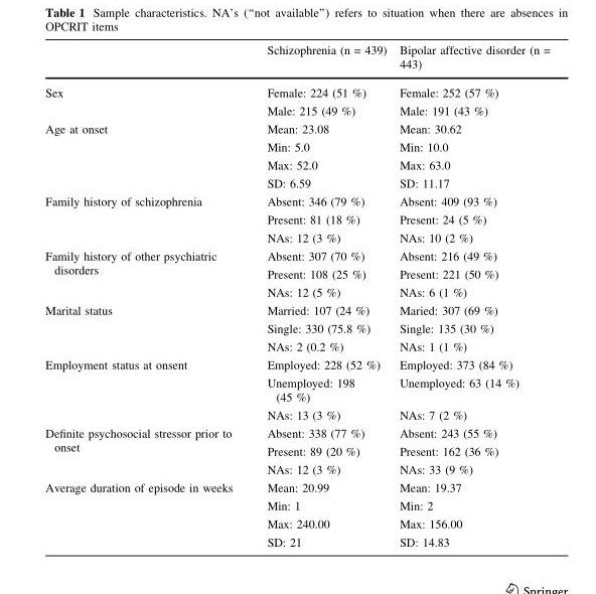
<table><thead><tr><td></td><td>Schizophrenia (n = 439)</td><td>Bipolar affective disorder (n = 443)</td></tr></thead><tbody><tr><td rowspan="2">Sex</td><td>Female: 224 (51 %)</td><td>Female: 252 (57 %)</td></tr><tr><td>Male: 215 (49 %)</td><td>Male: 191 (43 %)</td></tr><tr><td rowspan="4">Age at onset</td><td>Mean: 23.08</td><td>Mean: 30.62</td></tr><tr><td>Min: 5.0</td><td>Min: 10.0</td></tr><tr><td>Max: 52.0</td><td>Max: 63.0</td></tr><tr><td>SD: 6.59</td><td>SD: 11.17</td></tr><tr><td rowspan="3">Family history of schizophrenia</td><td>Absent: 346 (79 %)</td><td>Absent: 409 (93 %)</td></tr><tr><td>Present: 81 (18 %)</td><td>Present: 24 (5 %)</td></tr><tr><td>NAs: 12 (3 %)</td><td>NAs: 10 (2 %)</td></tr><tr><td rowspan="3">Family history of other psychiatric disorders</td><td>Absent: 307 (70 %)</td><td>Absent: 216 (49 %)</td></tr><tr><td>Present: 108 (25 %)</td><td>Present: 221 (50 %)</td></tr><tr><td>NAs: 12 (5 %)</td><td>NAs: 6 (1 %)</td></tr><tr><td rowspan="3">Marital status</td><td>Married: 107 (24 %)</td><td>Maried: 307 (69 %)</td></tr><tr><td>Single: 330 (75.8 %)</td><td>Single: 135 (30 %)</td></tr><tr><td>NAs: 2 (0.2 %)</td><td>NAs: 1 (1 %)</td></tr><tr><td rowspan="3">Employment status at onsent</td><td>Employed: 228 (52 %)</td><td>Employed: 373 (84 %)</td></tr><tr><td>Unemployed: 198 (45 %)</td><td>Unemployed: 63 (14 %)</td></tr><tr><td>NAs: 13 (3 %)</td><td>NAs: 7 (2 %)</td></tr><tr><td rowspan="3">Definite psychosocial stressor prior to onset</td><td>Absent: 338 (77 %)</td><td>Absent: 243 (55 %)</td></tr><tr><td>Present: 89 (20 %)</td><td>Present: 162 (36 %)</td></tr><tr><td>NAs: 12 (3 %)</td><td>NAs: 33 (9 %)</td></tr><tr><td rowspan="4">Average duration of episode in weeks</td><td>Mean: 20.99</td><td>Mean: 19.37</td></tr><tr><td>Min: 1</td><td>Min: 2</td></tr><tr><td>Max: 240.00</td><td>Max: 156.00</td></tr><tr><td>SD: 21</td><td>SD: 14.83</td></tr></tbody></table>